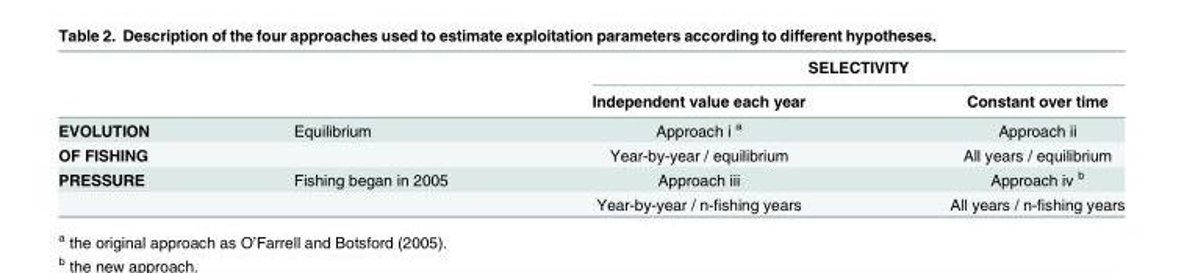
<table><thead><tr><td rowspan="2"></td><td rowspan="2"></td><td colspan="2">SELECTIVITY</td></tr><tr><td>Independent value each year</td><td>Constant over time</td></tr></thead><tbody><tr><td>EVOLUTION</td><td>Equilibrium</td><td>Approach i <sup>a</sup></td><td>Approach ii</td></tr><tr><td>OF FISHING</td><td></td><td>Year-by-year / equilibrium</td><td>All years / equilibrium</td></tr><tr><td rowspan="2">PRESSURE</td><td>Fishing began in 2005</td><td>Approach iii</td><td>Approach iv <sup>b</sup></td></tr><tr><td></td><td>Year-by-year / n-fishing years</td><td>All years / n-fishing years</td></tr></tbody></table>